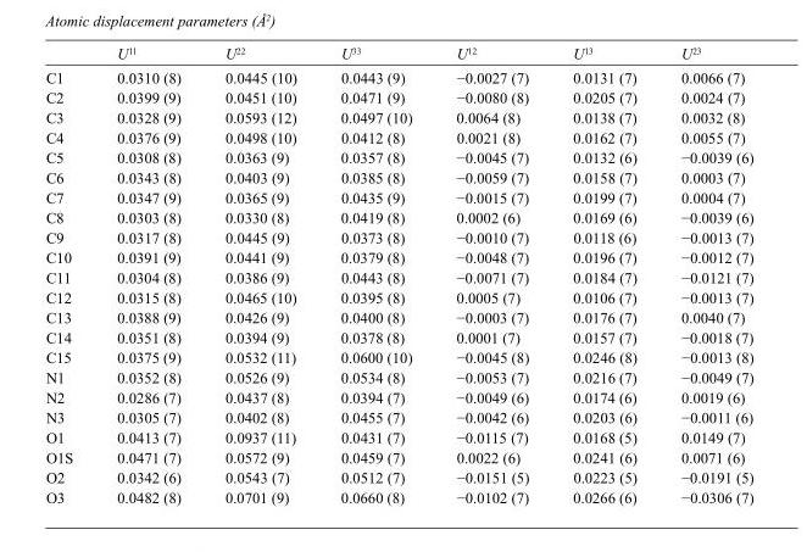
<table><thead><tr><td></td><td>U<sup>11</sup></td><td>U<sup>22</sup></td><td>U<sup>33</sup></td><td>U<sup>12</sup></td><td>U<sup>13</sup></td><td>U<sup>23</sup></td></tr></thead><tbody><tr><td>C1</td><td>0.0310 (8)</td><td>0.0445 (10)</td><td>0.0443 (9)</td><td>−0.0027 (7)</td><td>0.0131 (7)</td><td>0.0066 (7)</td></tr><tr><td>C2</td><td>0.0399 (9)</td><td>0.0451 (10)</td><td>0.0471 (9)</td><td>−0.0080 (8)</td><td>0.0205 (7)</td><td>0.0024 (7)</td></tr><tr><td>C3</td><td>0.0328 (9)</td><td>0.0593 (12)</td><td>0.0497 (10)</td><td>0.0064 (8)</td><td>0.0138 (7)</td><td>0.0032 (8)</td></tr><tr><td>C4</td><td>0.0376 (9)</td><td>0.0498 (10)</td><td>0.0412 (8)</td><td>0.0021 (8)</td><td>0.0162 (7)</td><td>0.0055 (7)</td></tr><tr><td>C5</td><td>0.0308 (8)</td><td>0.0363 (9)</td><td>0.0357 (8)</td><td>−0.0045 (7)</td><td>0.0132 (6)</td><td>−0.0039 (6)</td></tr><tr><td>C6</td><td>0.0343 (8)</td><td>0.0403 (9)</td><td>0.0385 (8)</td><td>−0.0059 (7)</td><td>0.0158 (7)</td><td>0.0003 (7)</td></tr><tr><td>C7</td><td>0.0347 (9)</td><td>0.0365 (9)</td><td>0.0435 (9)</td><td>−0.0015 (7)</td><td>0.0199 (7)</td><td>0.0004 (7)</td></tr><tr><td>C8</td><td>0.0303 (8)</td><td>0.0330 (8)</td><td>0.0419 (8)</td><td>0.0002 (6)</td><td>0.0169 (6)</td><td>−0.0039 (6)</td></tr><tr><td>C9</td><td>0.0317 (8)</td><td>0.0445 (9)</td><td>0.0373 (8)</td><td>−0.0010 (7)</td><td>0.0118 (6)</td><td>−0.0013 (7)</td></tr><tr><td>C10</td><td>0.0391 (9)</td><td>0.0441 (9)</td><td>0.0379 (8)</td><td>−0.0048 (7)</td><td>0.0196 (7)</td><td>−0.0012 (7)</td></tr><tr><td>C11</td><td>0.0304 (8)</td><td>0.0386 (9)</td><td>0.0443 (8)</td><td>−0.0071 (7)</td><td>0.0184 (7)</td><td>−0.0121 (7)</td></tr><tr><td>C12</td><td>0.0315 (8)</td><td>0.0465 (10)</td><td>0.0395 (8)</td><td>0.0005 (7)</td><td>0.0106 (7)</td><td>−0.0013 (7)</td></tr><tr><td>C13</td><td>0.0388 (9)</td><td>0.0426 (9)</td><td>0.0400 (8)</td><td>−0.0003 (7)</td><td>0.0176 (7)</td><td>0.0040 (7)</td></tr><tr><td>C14</td><td>0.0351 (8)</td><td>0.0394 (9)</td><td>0.0378 (8)</td><td>0.0001 (7)</td><td>0.0157 (7)</td><td>−0.0018 (7)</td></tr><tr><td>C15</td><td>0.0375 (9)</td><td>0.0532 (11)</td><td>0.0600 (10)</td><td>−0.0045 (8)</td><td>0.0246 (8)</td><td>−0.0013 (8)</td></tr><tr><td>N1</td><td>0.0352 (8)</td><td>0.0526 (9)</td><td>0.0534 (8)</td><td>−0.0053 (7)</td><td>0.0216 (7)</td><td>−0.0049 (7)</td></tr><tr><td>N2</td><td>0.0286 (7)</td><td>0.0437 (8)</td><td>0.0394 (7)</td><td>−0.0049 (6)</td><td>0.0174 (6)</td><td>0.0019 (6)</td></tr><tr><td>N3</td><td>0.0305 (7)</td><td>0.0402 (8)</td><td>0.0455 (7)</td><td>−0.0042 (6)</td><td>0.0203 (6)</td><td>−0.0011 (6)</td></tr><tr><td>O1</td><td>0.0413 (7)</td><td>0.0937 (11)</td><td>0.0431 (7)</td><td>−0.0115 (7)</td><td>0.0168 (5)</td><td>0.0149 (7)</td></tr><tr><td>O1S</td><td>0.0471 (7)</td><td>0.0572 (9)</td><td>0.0459 (7)</td><td>0.0022 (6)</td><td>0.0241 (6)</td><td>0.0071 (6)</td></tr><tr><td>O2</td><td>0.0342 (6)</td><td>0.0543 (7)</td><td>0.0512 (7)</td><td>−0.0151 (5)</td><td>0.0223 (5)</td><td>−0.0191 (5)</td></tr><tr><td>O3</td><td>0.0482 (8)</td><td>0.0701 (9)</td><td>0.0660 (8)</td><td>−0.0102 (7)</td><td>0.0266 (6)</td><td>−0.0306 (7)</td></tr></tbody></table>